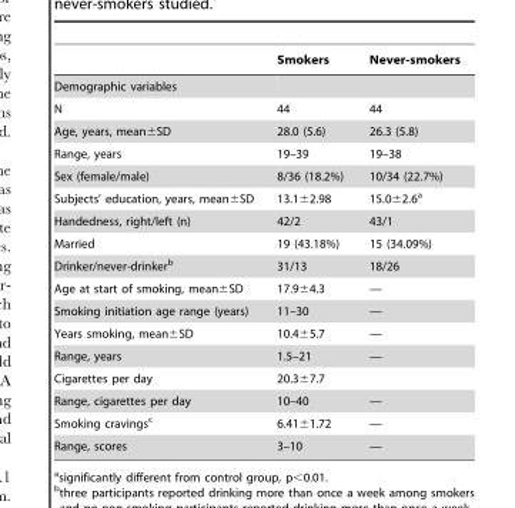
<table><thead><tr><td></td><td>Smokers</td><td>Never-smokers</td></tr></thead><tbody><tr><td colspan="3">Demographic variables</td></tr><tr><td>N</td><td>44</td><td>44</td></tr><tr><td>Age, years, mean±SD</td><td>28.0 (5.6)</td><td>26.3 (5.8)</td></tr><tr><td>Range, years</td><td>19–39</td><td>19–38</td></tr><tr><td>Sex (female/male)</td><td>8/36 (18.2%)</td><td>10/34 (22.7%)</td></tr><tr><td>Subjects’ education, years, mean±SD</td><td>13.1±2.98</td><td>15.0±2.6<sup>a</sup></td></tr><tr><td>Handedness, right/left (n)</td><td>42/2</td><td>43/1</td></tr><tr><td>Married</td><td>19 (43.18%)</td><td>15 (34.09%)</td></tr><tr><td>Drinker/never-drinker<sup>b</sup></td><td>31/13</td><td>18/26</td></tr><tr><td>Age at start of smoking, mean±SD</td><td>17.9±4.3</td><td>—</td></tr><tr><td>Smoking initiation age range (years)</td><td>11–30</td><td>—</td></tr><tr><td>Years smoking, mean±SD</td><td>10.4±5.7</td><td>—</td></tr><tr><td>Range, years</td><td>1.5–21</td><td>—</td></tr><tr><td>Cigarettes per day</td><td>20.3±7.7</td><td></td></tr><tr><td>Range, cigarettes per day</td><td>10–40</td><td>—</td></tr><tr><td>Smoking cravings<sup>c</sup></td><td>6.41±1.72</td><td>—</td></tr><tr><td>Range, scores</td><td>3–10</td><td>—</td></tr></tbody></table>